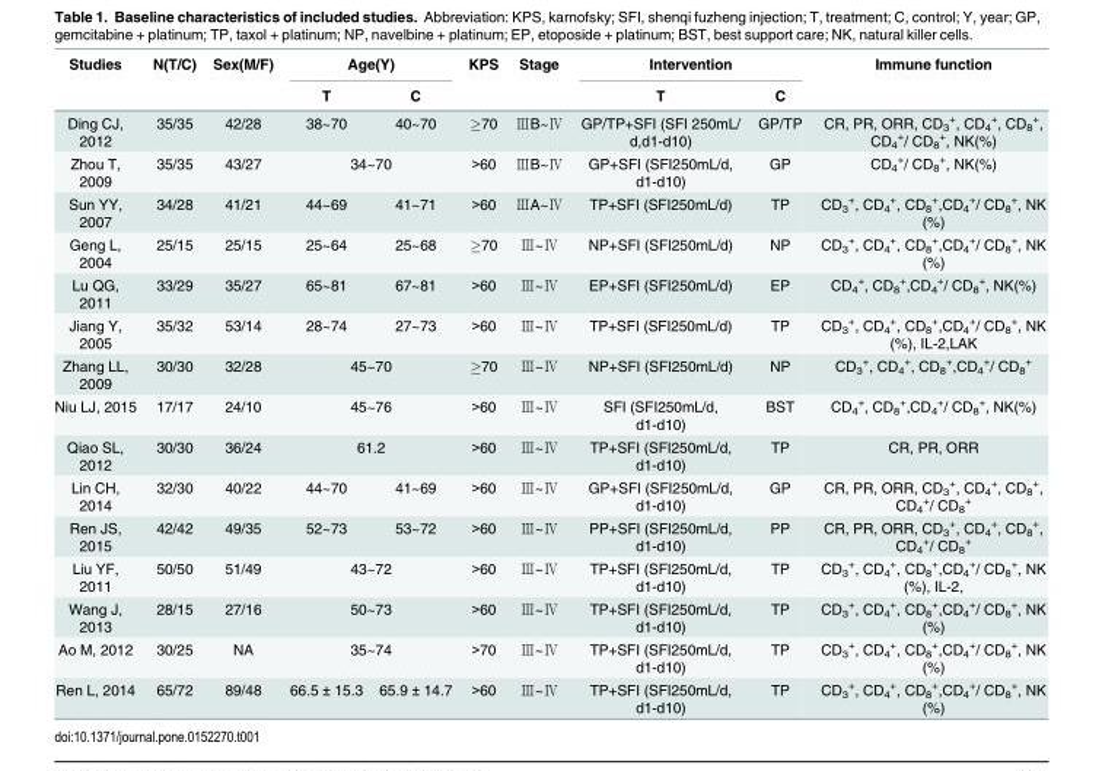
<table><thead><tr><td rowspan="2">Studies</td><td rowspan="2">N(T/C)</td><td rowspan="2">Sex(M/F)</td><td colspan="2">Age(Y)</td><td rowspan="2">KPS</td><td rowspan="2">Stage</td><td colspan="2">Intervention</td><td rowspan="2">Immune function</td></tr><tr><td>T</td><td>C</td><td>T</td><td>C</td></tr></thead><tbody><tr><td>Ding CJ, 2012</td><td>35/35</td><td>42/28</td><td>38~70</td><td>40~70</td><td>≥70</td><td>ⅢB~Ⅳ</td><td>GP/TP+SFI (SFI 250mL/ d,d1-d10)</td><td>GP/TP</td><td>CR, PR, ORR, CD<sub>3</sub> <sup>+</sup>, CD<sub>4</sub> <sup>+</sup>, CD<sub>8</sub> <sup>+</sup>, CD<sub>4</sub> <sup>+</sup>/ CD<sub>8</sub> <sup>+</sup>, NK(%)</td></tr><tr><td>Zhou T, 2009</td><td>35/35</td><td>43/27</td><td colspan="2">34~70</td><td>&gt;60</td><td>ⅢB~Ⅳ</td><td>GP+SFI (SFI250mL/d, d1-d10)</td><td>GP</td><td>CD<sub>4</sub> <sup>+</sup>/ CD<sub>8</sub> <sup>+</sup>, NK(%)</td></tr><tr><td>Sun YY, 2007</td><td>34/28</td><td>41/21</td><td>44~69</td><td>41~71</td><td>&gt;60</td><td>ⅢA~Ⅳ</td><td>TP+SFI (SFI250mL/d)</td><td>TP</td><td>CD<sub>3</sub> <sup>+</sup>, CD<sub>4</sub> <sup>+</sup>, CD<sub>8</sub> <sup>+</sup>,CD<sub>4</sub> <sup>+</sup>/ CD<sub>8</sub> <sup>+</sup>, NK (%)</td></tr><tr><td>Geng L, 2004</td><td>25/15</td><td>25/15</td><td>25~64</td><td>25~68</td><td>≥70</td><td>Ⅲ~Ⅳ</td><td>NP+SFI (SFI250mL/d)</td><td>NP</td><td>CD<sub>3</sub> <sup>+</sup>, CD<sub>4</sub> <sup>+</sup>, CD<sub>8</sub> <sup>+</sup>,CD<sub>4</sub> <sup>+</sup>/ CD<sub>8</sub> <sup>+</sup>, NK (%)</td></tr><tr><td>Lu QG, 2011</td><td>33/29</td><td>35/27</td><td>65~81</td><td>67~81</td><td>&gt;60</td><td>Ⅲ~Ⅳ</td><td>EP+SFI (SFI250mL/d)</td><td>EP</td><td>CD<sub>4</sub> <sup>+</sup>, CD<sub>8</sub> <sup>+</sup>,CD<sub>4</sub> <sup>+</sup>/ CD<sub>8</sub> <sup>+</sup>, NK(%)</td></tr><tr><td>Jiang Y, 2005</td><td>35/32</td><td>53/14</td><td>28~74</td><td>27~73</td><td>&gt;60</td><td>Ⅲ~Ⅳ</td><td>TP+SFI (SFI250mL/d)</td><td>TP</td><td>CD<sub>3</sub> <sup>+</sup>, CD<sub>4</sub> <sup>+</sup>, CD<sub>8</sub> <sup>+</sup>,CD<sub>4</sub> <sup>+</sup>/ CD<sub>8</sub> <sup>+</sup>, NK (%), IL-2,LAK</td></tr><tr><td>Zhang LL, 2009</td><td>30/30</td><td>32/28</td><td colspan="2">45~70</td><td>≥70</td><td>Ⅲ~Ⅳ</td><td>NP+SFI (SFI250mL/d)</td><td>NP</td><td>CD<sub>3</sub> <sup>+</sup>, CD<sub>4</sub> <sup>+</sup>, CD<sub>8</sub> <sup>+</sup>,CD<sub>4</sub> <sup>+</sup>/ CD<sub>8</sub> <sup>+</sup></td></tr><tr><td>Niu LJ, 2015</td><td>17/17</td><td>24/10</td><td colspan="2">45~76</td><td>&gt;60</td><td>Ⅲ~Ⅳ</td><td>SFI (SFI250mL/d, d1-d10)</td><td>BST</td><td>CD<sub>4</sub> <sup>+</sup>, CD<sub>8</sub> <sup>+</sup>,CD<sub>4</sub> <sup>+</sup>/ CD<sub>8</sub> <sup>+</sup>, NK(%)</td></tr><tr><td>Qiao SL, 2012</td><td>30/30</td><td>36/24</td><td colspan="2">61.2</td><td>&gt;60</td><td>Ⅲ~Ⅳ</td><td>TP+SFI (SFI250mL/d, d1-d10)</td><td>TP</td><td>CR, PR, ORR</td></tr><tr><td>Lin CH, 2014</td><td>32/30</td><td>40/22</td><td>44~70</td><td>41~69</td><td>&gt;60</td><td>Ⅲ~Ⅳ</td><td>GP+SFI (SFI250mL/d, d1-d10)</td><td>GP</td><td>CR, PR, ORR, CD<sub>3</sub> <sup>+</sup>, CD<sub>4</sub> <sup>+</sup>, CD<sub>8</sub> <sup>+</sup>, CD<sub>4</sub> <sup>+</sup>/ CD<sub>8</sub> <sup>+</sup></td></tr><tr><td>Ren JS, 2015</td><td>42/42</td><td>49/35</td><td>52~73</td><td>53~72</td><td>&gt;60</td><td>Ⅲ~Ⅳ</td><td>PP+SFI (SFI250mL/d, d1-d10)</td><td>PP</td><td>CR, PR, ORR, CD<sub>3</sub> <sup>+</sup>, CD<sub>4</sub> <sup>+</sup>, CD<sub>8</sub> <sup>+</sup>, CD<sub>4</sub> <sup>+</sup>/ CD<sub>8</sub> <sup>+</sup></td></tr><tr><td>Liu YF, 2011</td><td>50/50</td><td>51/49</td><td colspan="2">43~72</td><td>&gt;60</td><td>Ⅲ~Ⅳ</td><td>TP+SFI (SFI250mL/d, d1-d10)</td><td>TP</td><td>CD<sub>3</sub> <sup>+</sup>, CD<sub>4</sub> <sup>+</sup>, CD<sub>8</sub> <sup>+</sup>,CD<sub>4</sub> <sup>+</sup>/ CD<sub>8</sub> <sup>+</sup>, NK (%), IL-2,</td></tr><tr><td>Wang J, 2013</td><td>28/15</td><td>27/16</td><td colspan="2">50~73</td><td>&gt;60</td><td>Ⅲ~Ⅳ</td><td>TP+SFI (SFI250mL/d, d1-d10)</td><td>TP</td><td>CD<sub>3</sub> <sup>+</sup>, CD<sub>4</sub> <sup>+</sup>, CD<sub>8</sub> <sup>+</sup>,CD<sub>4</sub> <sup>+</sup>/ CD<sub>8</sub> <sup>+</sup>, NK (%)</td></tr><tr><td>Ao M, 2012</td><td>30/25</td><td>NA</td><td colspan="2">35~74</td><td>&gt;70</td><td>Ⅲ~Ⅳ</td><td>TP+SFI (SFI250mL/d, d1-d10)</td><td>TP</td><td>CD<sub>3</sub> <sup>+</sup>, CD<sub>4</sub> <sup>+</sup>, CD<sub>8</sub> <sup>+</sup>,CD<sub>4</sub> <sup>+</sup>/ CD<sub>8</sub> <sup>+</sup>, NK (%)</td></tr><tr><td>Ren L, 2014</td><td>65/72</td><td>89/48</td><td>66.5 ± 15.3</td><td>65.9 ± 14.7</td><td>&gt;60</td><td>Ⅲ~Ⅳ</td><td>TP+SFI (SFI250mL/d, d1-d10)</td><td>TP</td><td>CD<sub>3</sub> <sup>+</sup>, CD<sub>4</sub> <sup>+</sup>, CD<sub>8</sub> <sup>+</sup>,CD<sub>4</sub> <sup>+</sup>/ CD<sub>8</sub> <sup>+</sup>, NK (%)</td></tr></tbody></table>